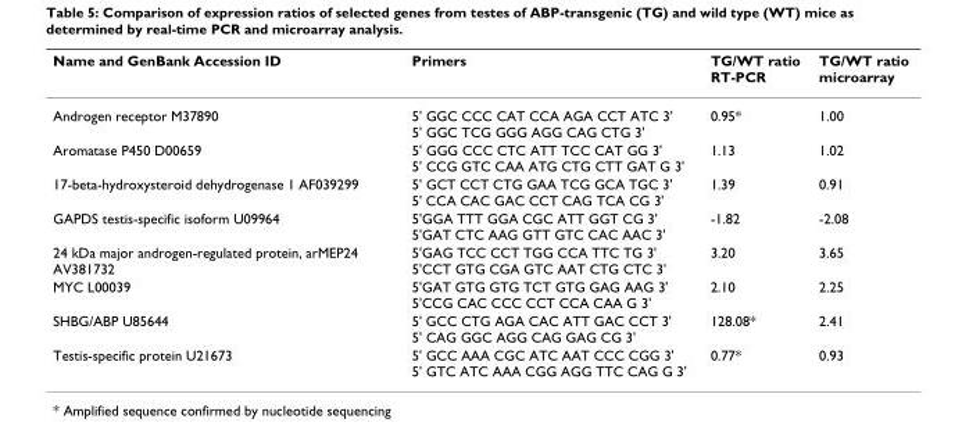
<table><thead><tr><td>Name and GenBank Accession ID</td><td>Primers</td><td>TG/WT ratio RT-PCR</td><td>TG/WT ratio microarray</td></tr></thead><tbody><tr><td>Androgen receptor M37890</td><td>5&#x27; GGC CCC CAT CCA AGA CCT ATC 3&#x27; 5&#x27; GGC TCG GGG AGG CAG CTG 3&#x27;</td><td>0.95*</td><td>1.00</td></tr><tr><td>Aromatase P450 D00659</td><td>5&#x27; GGG CCC CTC ATT TCC CAT GG 3&#x27; 5&#x27; CCG GTC CAA ATG CTG CTT GAT G 3&#x27;</td><td>1.13</td><td>1.02</td></tr><tr><td>17-beta-hydroxysteroid dehydrogenase 1 AF039299</td><td>5&#x27; GCT CCT CTG GAA TCG GCA TGC 3&#x27; 5&#x27; CCA CAC GAC CCT CAG TCA CG 3&#x27;</td><td>1.39</td><td>0.91</td></tr><tr><td>GAPDS testis-specific isoform U09964</td><td>5&#x27;GGA TTT GGA CGC ATT GGT CG 3&#x27; 5&#x27;GAT CTC AAG GTT GTC CAC AAC 3&#x27;</td><td>-1.82</td><td>-2.08</td></tr><tr><td>24 kDa major androgen-regulated protein, arMEP24 AV381732</td><td>5&#x27;GAG TCC CCT TGG CCA TTC TG 3&#x27; 5&#x27;CCT GTG CGA GTC AAT CTG CTC 3&#x27;</td><td>3.20</td><td>3.65</td></tr><tr><td>MYC L00039</td><td>5&#x27;GAT GTG GTG TCT GTG GAG AAG 3&#x27; 5&#x27;CCG CAC CCC CCT CCA CAA G 3&#x27;</td><td>2.10</td><td>2.25</td></tr><tr><td>SHBG/ABP U85644</td><td>5&#x27; GCC CTG AGA CAC ATT GAC CCT 3&#x27; 5&#x27; CAG GGC AGG CAG GAG CG 3&#x27;</td><td>128.08*</td><td>2.41</td></tr><tr><td>Testis-specific protein U21673</td><td>5&#x27; GCC AAA CGC ATC AAT CCC CGG 3&#x27; 5&#x27; GTC ATC AAA CGG AGG TTC CAG G 3&#x27;</td><td>0.77*</td><td>0.93</td></tr></tbody></table>